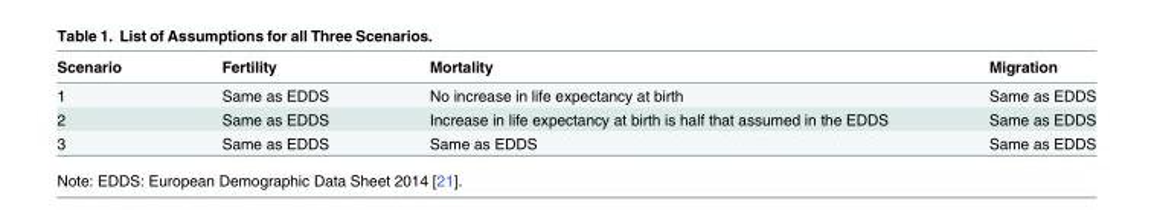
<table><thead><tr><td>Scenario</td><td>Fertility</td><td>Mortality</td><td>Migration</td></tr></thead><tbody><tr><td>1</td><td>Same as EDDS</td><td>No increase in life expectancy at birth</td><td>Same as EDDS</td></tr><tr><td>2</td><td>Same as EDDS</td><td>Increase in life expectancy at birth is half that assumed in the EDDS</td><td>Same as EDDS</td></tr><tr><td>3</td><td>Same as EDDS</td><td>Same as EDDS</td><td>Same as EDDS</td></tr></tbody></table>